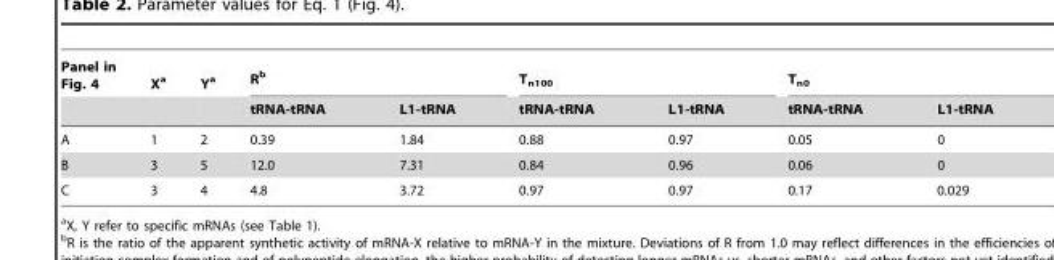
<table><thead><tr><td rowspan="2">Panel in Fig. 4</td><td rowspan="2">X<sup>a</sup></td><td rowspan="2">Y<sup>a</sup></td><td colspan="2">R<sup>b</sup></td><td colspan="2">T<sub>n100</sub></td><td colspan="2">T<sub>n0</sub></td></tr><tr><td>tRNA-tRNA</td><td>L1-tRNA</td><td>tRNA-tRNA</td><td>L1-tRNA</td><td>tRNA-tRNA</td><td>L1-tRNA</td></tr></thead><tbody><tr><td>A</td><td>1</td><td>2</td><td>0.39</td><td>1.84</td><td>0.88</td><td>0.97</td><td>0.05</td><td>0</td></tr><tr><td>B</td><td>3</td><td>5</td><td>12.0</td><td>7.31</td><td>0.84</td><td>0.96</td><td>0.06</td><td>0</td></tr><tr><td>C</td><td>3</td><td>4</td><td>4.8</td><td>3.72</td><td>0.97</td><td>0.97</td><td>0.17</td><td>0.029</td></tr></tbody></table>